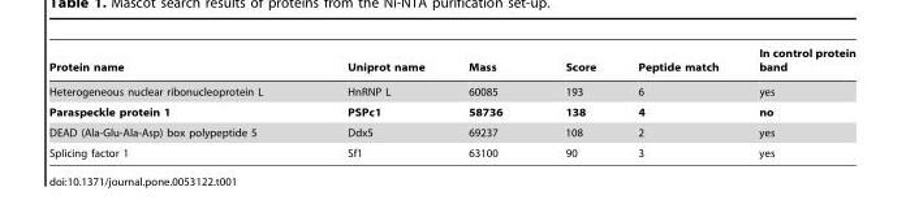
<table><thead><tr><td>Protein name</td><td>Uniprot name</td><td>Mass</td><td>Score</td><td>Peptide match</td><td>In control protein band</td></tr></thead><tbody><tr><td>Heterogeneous nuclear ribonucleoprotein L</td><td>HnRNP L</td><td>60085</td><td>193</td><td>6</td><td>yes</td></tr><tr><td>Paraspeckle protein 1</td><td>PSPc1</td><td>58736</td><td>138</td><td>4</td><td>no</td></tr><tr><td>DEAD (Ala-Glu-Ala-Asp) box polypeptide 5</td><td>Ddx5</td><td>69237</td><td>108</td><td>2</td><td>yes</td></tr><tr><td>Splicing factor 1</td><td>Sf1</td><td>63100</td><td>90</td><td>3</td><td>yes</td></tr></tbody></table>